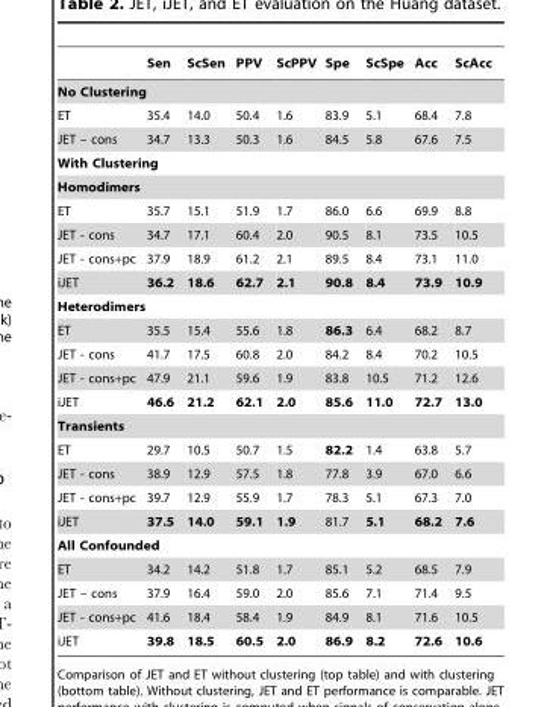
<table><thead><tr><td></td><td>Sen</td><td>ScSen</td><td>PPV</td><td>ScPPV</td><td>Spe</td><td>ScSpe</td><td>Acc</td><td>ScAcc</td></tr></thead><tbody><tr><td colspan="9">No Clustering</td></tr><tr><td>ET</td><td>35.4</td><td>14.0</td><td>50.4</td><td>1.6</td><td>83.9</td><td>5.1</td><td>68.4</td><td>7.8</td></tr><tr><td>JET – cons</td><td>34.7</td><td>13.3</td><td>50.3</td><td>1.6</td><td>84.5</td><td>5.8</td><td>67.6</td><td>7.5</td></tr><tr><td colspan="9">With Clustering</td></tr><tr><td colspan="9">Homodimers</td></tr><tr><td>ET</td><td>35.7</td><td>15.1</td><td>51.9</td><td>1.7</td><td>86.0</td><td>6.6</td><td>69.9</td><td>8.8</td></tr><tr><td>JET - cons</td><td>34.7</td><td>17.1</td><td>60.4</td><td>2.0</td><td>90.5</td><td>8.1</td><td>73.5</td><td>10.5</td></tr><tr><td>JET - cons+pc</td><td>37.9</td><td>18.9</td><td>61.2</td><td>2.1</td><td>89.5</td><td>8.4</td><td>73.1</td><td>11.0</td></tr><tr><td>iJET</td><td>36.2</td><td>18.6</td><td>62.7</td><td>2.1</td><td>90.8</td><td>8.4</td><td>73.9</td><td>10.9</td></tr><tr><td colspan="9">Heterodimers</td></tr><tr><td>ET</td><td>35.5</td><td>15.4</td><td>55.6</td><td>1.8</td><td>86.3</td><td>6.4</td><td>68.2</td><td>8.7</td></tr><tr><td>JET - cons</td><td>41.7</td><td>17.5</td><td>60.8</td><td>2.0</td><td>84.2</td><td>8.4</td><td>70.2</td><td>10.5</td></tr><tr><td>JET - cons+pc</td><td>47.9</td><td>21.1</td><td>59.6</td><td>1.9</td><td>83.8</td><td>10.5</td><td>71.2</td><td>12.6</td></tr><tr><td>iJET</td><td>46.6</td><td>21.2</td><td>62.1</td><td>2.0</td><td>85.6</td><td>11.0</td><td>72.7</td><td>13.0</td></tr><tr><td colspan="9">Transients</td></tr><tr><td>ET</td><td>29.7</td><td>10.5</td><td>50.7</td><td>1.5</td><td>82.2</td><td>1.4</td><td>63.8</td><td>5.7</td></tr><tr><td>JET - cons</td><td>38.9</td><td>12.9</td><td>57.5</td><td>1.8</td><td>77.8</td><td>3.9</td><td>67.0</td><td>6.6</td></tr><tr><td>JET - cons+pc</td><td>39.7</td><td>12.9</td><td>55.9</td><td>1.7</td><td>78.3</td><td>5.1</td><td>67.3</td><td>7.0</td></tr><tr><td>iJET</td><td>37.5</td><td>14.0</td><td>59.1</td><td>1.9</td><td>81.7</td><td>5.1</td><td>68.2</td><td>7.6</td></tr><tr><td colspan="9">All Confounded</td></tr><tr><td>ET</td><td>34.2</td><td>14.2</td><td>51.8</td><td>1.7</td><td>85.1</td><td>5.2</td><td>68.5</td><td>7.9</td></tr><tr><td>JET – cons</td><td>37.9</td><td>16.4</td><td>59.0</td><td>2.0</td><td>85.6</td><td>7.1</td><td>71.4</td><td>9.5</td></tr><tr><td>JET - cons+pc</td><td>41.6</td><td>18.4</td><td>58.4</td><td>1.9</td><td>84.9</td><td>8.1</td><td>71.6</td><td>10.5</td></tr><tr><td>iJET</td><td>39.8</td><td>18.5</td><td>60.5</td><td>2.0</td><td>86.9</td><td>8.2</td><td>72.6</td><td>10.6</td></tr></tbody></table>